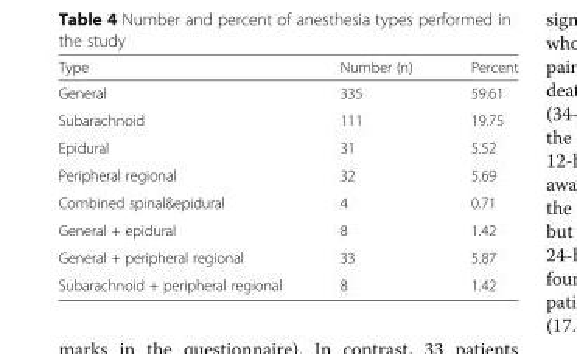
<table><thead><tr><td>Type</td><td>Number (n)</td><td>Percent</td></tr></thead><tbody><tr><td>General</td><td>335</td><td>59.61</td></tr><tr><td>Subarachnoid</td><td>111</td><td>19.75</td></tr><tr><td>Epidural</td><td>31</td><td>5.52</td></tr><tr><td>Peripheral regional</td><td>32</td><td>5.69</td></tr><tr><td>Combined spinal&amp;epidural</td><td>4</td><td>0.71</td></tr><tr><td>General + epidural</td><td>8</td><td>1.42</td></tr><tr><td>General + peripheral regional</td><td>33</td><td>5.87</td></tr><tr><td>Subarachnoid + peripheral regional</td><td>8</td><td>1.42</td></tr></tbody></table>